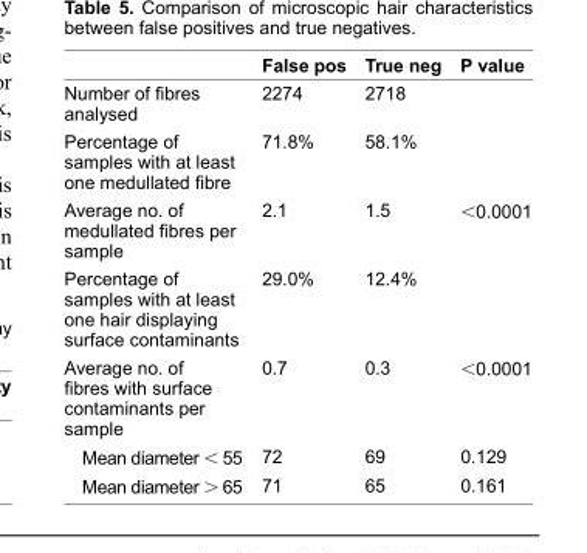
<table><thead><tr><td></td><td>False pos</td><td>True neg</td><td>p value</td></tr></thead><tbody><tr><td>Number of fibres analysed</td><td>2274</td><td>2718</td><td></td></tr><tr><td>Percentage of samples with at least one medullated fibre</td><td>71.8%</td><td>58.1%</td><td></td></tr><tr><td>Average no. of medullated fibres per sample</td><td>2.1</td><td>1.5</td><td>&lt;0.0001</td></tr><tr><td>Percentage of samples with at least one hair displaying surface contaminants</td><td>29.0%</td><td>12.4%</td><td></td></tr><tr><td>Average no. of fibres with surface contaminants per sample</td><td>0.7</td><td>0.3</td><td>&lt;0.0001</td></tr><tr><td>Mean diameter &lt; 55</td><td>72</td><td>69</td><td>0.129</td></tr><tr><td>Mean diameter &gt; 65</td><td>71</td><td>65</td><td>0.161</td></tr></tbody></table>